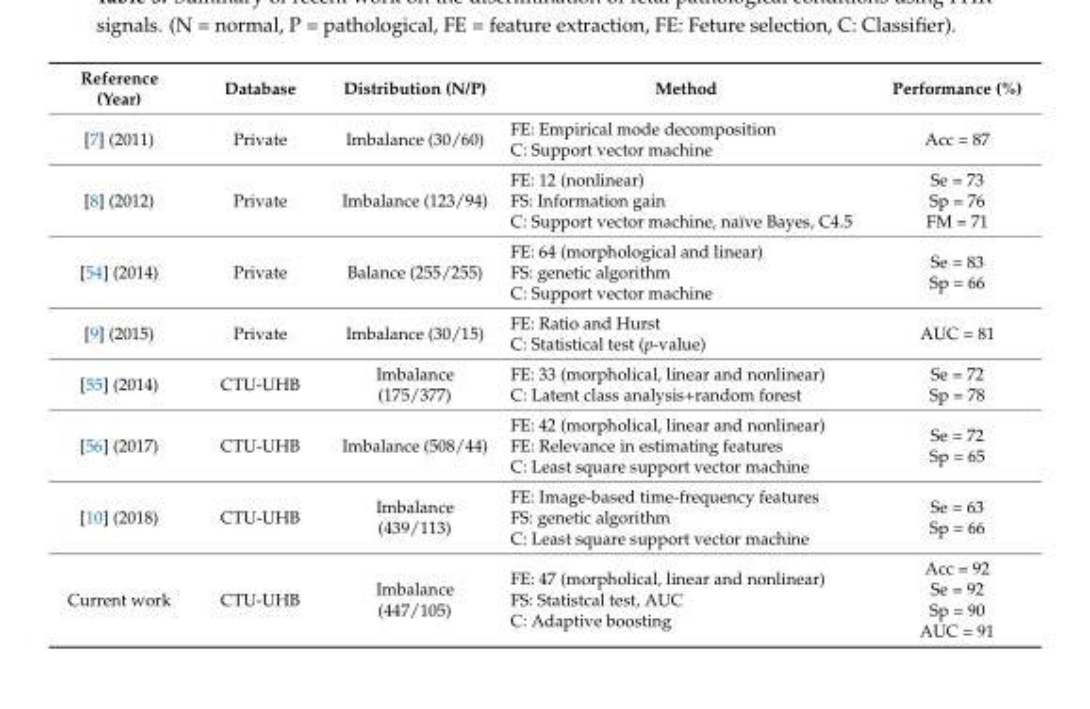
<table><thead><tr><td>Reference (Year)</td><td>Database</td><td>Distribution (N/P)</td><td>Method</td><td>Performance (%)</td></tr></thead><tbody><tr><td>[7] (2011)</td><td>Private</td><td>Imbalance (30/60)</td><td>FE: Empirical mode decomposition C: Support vector machine</td><td>Acc = 87</td></tr><tr><td>[8] (2012)</td><td>Private</td><td>Imbalance (123/94)</td><td>FE: 12 (nonlinear) FS: Information gain C: Support vector machine, naïve Bayes, C4.5</td><td>Se = 73 Sp = 76 FM = 71</td></tr><tr><td>[54] (2014)</td><td>Private</td><td>Balance (255/255)</td><td>FE: 64 (morphological and linear) FS: genetic algorithm C: Support vector machine</td><td>Se = 83 Sp = 66</td></tr><tr><td>[9] (2015)</td><td>Private</td><td>Imbalance (30/15)</td><td>FE: Ratio and Hurst C: Statistical test (p-value)</td><td>AUC = 81</td></tr><tr><td>[55] (2014)</td><td>CTU-UHB</td><td>Imbalance (175/377)</td><td>FE: 33 (morpholical, linear and nonlinear) C: Latent class analysis+random forest</td><td>Se = 72 Sp = 78</td></tr><tr><td>[56] (2017)</td><td>CTU-UHB</td><td>Imbalance (508/44)</td><td>FE: 42 (morpholical, linear and nonlinear) FE: Relevance in estimating features C: Least square support vector machine</td><td>Se = 72 Sp = 65</td></tr><tr><td>[10] (2018)</td><td>CTU-UHB</td><td>Imbalance (439/113)</td><td>FE: Image-based time-frequency features FS: genetic algorithm C: Least square support vector machine</td><td>Se = 63 Sp = 66</td></tr><tr><td>Current work</td><td>CTU-UHB</td><td>Imbalance (447/105)</td><td>FE: 47 (morpholical, linear and nonlinear) FS: Statistcal test, AUC C: Adaptive boosting</td><td>Acc = 92 Se = 92 Sp = 90 AUC = 91</td></tr></tbody></table>